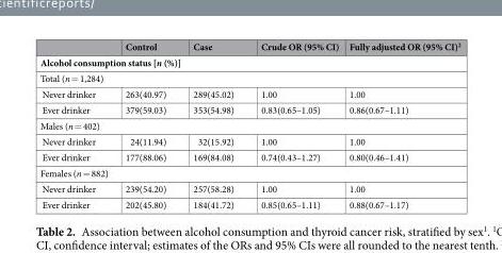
<table><thead><tr><td></td><td>Control</td><td>Case</td><td>Crude OR (95% CI)</td><td>Fully adjusted OR (95% CI)<sup>2</sup></td></tr></thead><tbody><tr><td colspan="5">Alcohol consumption status [n (%)]</td></tr><tr><td colspan="5">Total (n = 1,284)</td></tr><tr><td>Never drinker</td><td>263(40.97)</td><td>289(45.02)</td><td>1.00</td><td>1.00</td></tr><tr><td>Ever drinker</td><td>379(59.03)</td><td>353(54.98)</td><td>0.83(0.65–1.05)</td><td>0.86(0.67–1.11)</td></tr><tr><td colspan="5">Males (n = 402)</td></tr><tr><td>Never drinker</td><td>24(11.94)</td><td>32(15.92)</td><td>1.00</td><td>1.00</td></tr><tr><td>Ever drinker</td><td>177(88.06)</td><td>169(84.08)</td><td>0.74(0.43–1.27)</td><td>0.80(0.46–1.41)</td></tr><tr><td colspan="5">Females (n = 882)</td></tr><tr><td>Never drinker</td><td>239(54.20)</td><td>257(58.28)</td><td>1.00</td><td>1.00</td></tr><tr><td>Ever drinker</td><td>202(45.80)</td><td>184(41.72)</td><td>0.85(0.65–1.11)</td><td>0.88(0.67–1.17)</td></tr></tbody></table>